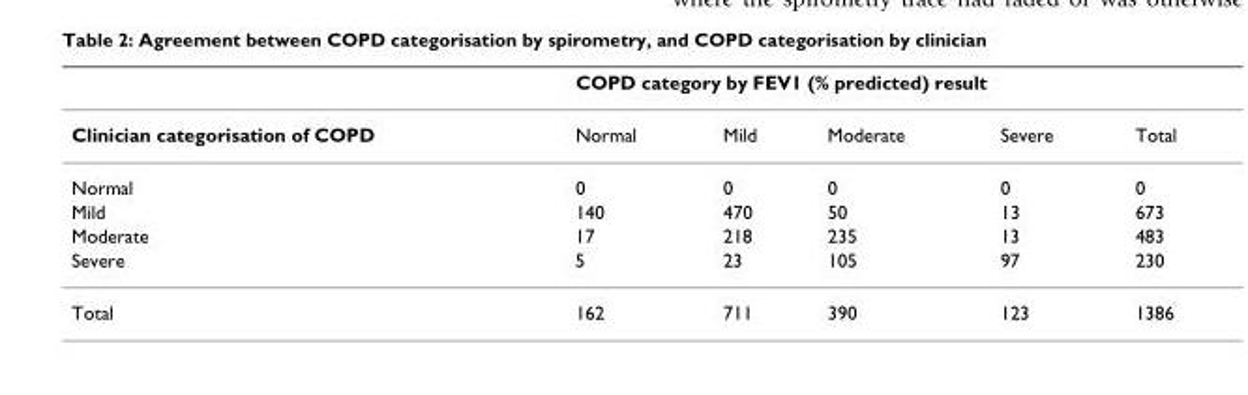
<table><thead><tr><td rowspan="2">Clinician categorisation of COPD</td><td colspan="5">COPD category by FEV1 (% predicted) result</td></tr><tr><td>Normal</td><td>Mild</td><td>Moderate</td><td>Severe</td><td>Total</td></tr></thead><tbody><tr><td>Normal</td><td>0</td><td>0</td><td>0</td><td>0</td><td>0</td></tr><tr><td>Mild</td><td>140</td><td>470</td><td>50</td><td>13</td><td>673</td></tr><tr><td>Moderate</td><td>17</td><td>218</td><td>235</td><td>13</td><td>483</td></tr><tr><td>Severe</td><td>5</td><td>23</td><td>105</td><td>97</td><td>230</td></tr><tr><td>Total</td><td>162</td><td>711</td><td>390</td><td>123</td><td>1386</td></tr></tbody></table>